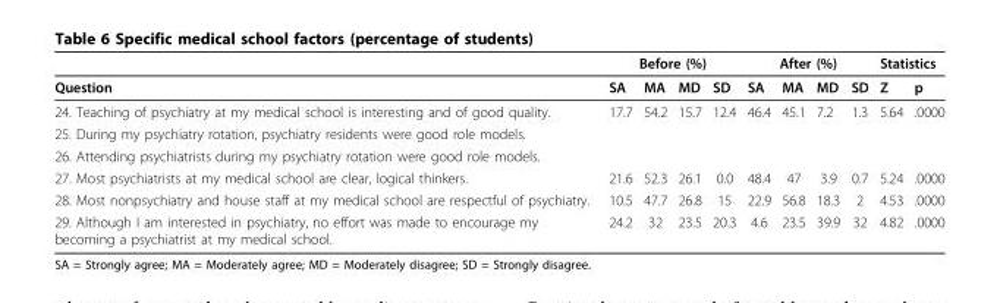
<table><thead><tr><td rowspan="2">Question</td><td colspan="4">Before (%)</td><td colspan="4">After (%)</td><td colspan="2">Statistics</td></tr><tr><td>SA</td><td>MA</td><td>MD</td><td>SD</td><td>SA</td><td>MA</td><td>MD</td><td>SD</td><td>Z</td><td>p</td></tr></thead><tbody><tr><td>24. Teaching of psychiatry at my medical school is interesting and of good quality.</td><td>17.7</td><td>54.2</td><td>15.7</td><td>12.4</td><td>46.4</td><td>45.1</td><td>7.2</td><td>1.3</td><td>5.64</td><td>.0000</td></tr><tr><td colspan="11">25. During my psychiatry rotation, psychiatry residents were good role models.</td></tr><tr><td colspan="11">26. Attending psychiatrists during my psychiatry rotation were good role models.</td></tr><tr><td>27. Most psychiatrists at my medical school are clear, logical thinkers.</td><td>21.6</td><td>52.3</td><td>26.1</td><td>0.0</td><td>48.4</td><td>47</td><td>3.9</td><td>0.7</td><td>5.24</td><td>.0000</td></tr><tr><td>28. Most nonpsychiatry and house staff at my medical school are respectful of psychiatry.</td><td>10.5</td><td>47.7</td><td>26.8</td><td>15</td><td>22.9</td><td>56.8</td><td>18.3</td><td>2</td><td>4.53</td><td>.0000</td></tr><tr><td>29. Although I am interested in psychiatry, no effort was made to encourage my becoming a psychiatrist at my medical school.</td><td>24.2</td><td>32</td><td>23.5</td><td>20.3</td><td>4.6</td><td>23.5</td><td>39.9</td><td>32</td><td>4.82</td><td>.0000</td></tr></tbody></table>